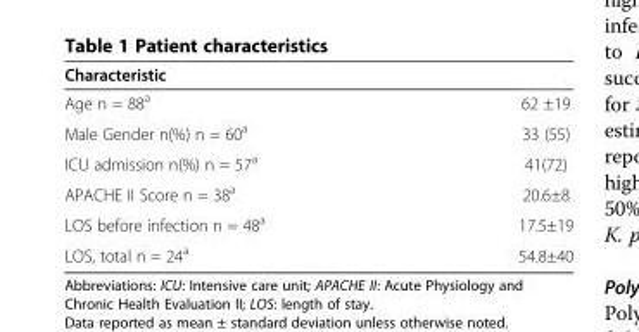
<table><thead><tr><td>Characteristic</td><td></td></tr></thead><tbody><tr><td>Age n = 88<sup>a</sup></td><td>62 ±19</td></tr><tr><td>Male Gender n(%) n = 60<sup>a</sup></td><td>33 (55)</td></tr><tr><td>ICU admission n(%) n = 57<sup>a</sup></td><td>41(72)</td></tr><tr><td>APACHE II Score n = 38<sup>a</sup></td><td>20.6±8</td></tr><tr><td>LOS before infection n = 48<sup>a</sup></td><td>17.5±19</td></tr><tr><td>LOS, total n = 24<sup>a</sup></td><td>54.8±40</td></tr></tbody></table>